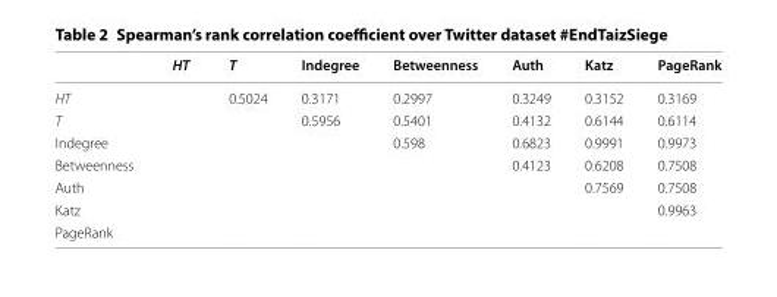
<table><thead><tr><td></td><td>HT</td><td>T</td><td>Indegree</td><td>Betweenness</td><td>Auth</td><td>Katz</td><td>PageRank</td></tr></thead><tbody><tr><td>HT</td><td></td><td>0.5024</td><td>0.3171</td><td>0.2997</td><td>0.3249</td><td>0.3152</td><td>0.3169</td></tr><tr><td>T</td><td></td><td></td><td>0.5956</td><td>0.5401</td><td>0.4132</td><td>0.6144</td><td>0.6114</td></tr><tr><td>Indegree</td><td></td><td></td><td></td><td>0.598</td><td>0.6823</td><td>0.9991</td><td>0.9973</td></tr><tr><td>Betweenness</td><td></td><td></td><td></td><td></td><td>0.4123</td><td>0.6208</td><td>0.7508</td></tr><tr><td>Auth</td><td></td><td></td><td></td><td></td><td></td><td>0.7569</td><td>0.7508</td></tr><tr><td>Katz</td><td></td><td></td><td></td><td></td><td></td><td></td><td>0.9963</td></tr><tr><td>PageRank</td><td></td><td></td><td></td><td></td><td></td><td></td><td></td></tr></tbody></table>